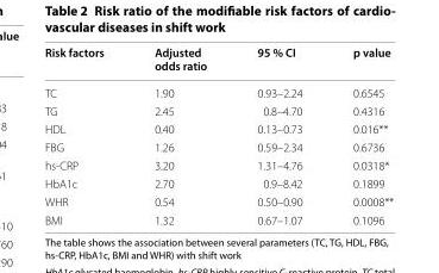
<table><thead><tr><td>Risk factors</td><td>Adjusted odds ratio</td><td>95 % CI</td><td>p value</td></tr></thead><tbody><tr><td>TC</td><td>1.90</td><td>0.93–2.24</td><td>0.6545</td></tr><tr><td>TG</td><td>2.45</td><td>0.8–4.70</td><td>0.4316</td></tr><tr><td>HDL</td><td>0.40</td><td>0.13–0.73</td><td>0.016**</td></tr><tr><td>FBG</td><td>1.26</td><td>0.59–2.34</td><td>0.6736</td></tr><tr><td>hs‑CRP</td><td>3.20</td><td>1.31–4.76</td><td>0.0318*</td></tr><tr><td>HbA1c</td><td>2.70</td><td>0.9–8.42</td><td>0.1899</td></tr><tr><td>WHR</td><td>0.54</td><td>0.50–0.90</td><td>0.0008**</td></tr><tr><td>BMI</td><td>1.32</td><td>0.67–1.07</td><td>0.1096</td></tr></tbody></table>